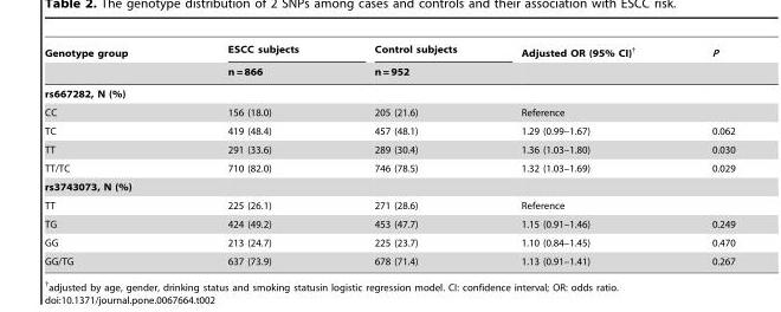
<table><thead><tr><td rowspan="2">Genotype group</td><td rowspan="2">ESCC subjects n = 866</td><td rowspan="2">Control subjects n = 952</td><td rowspan="2">Adjusted OR (95% CI)†</td><td rowspan="2">P</td></tr><tr></tr></thead><tbody><tr><td colspan="5">rs667282, N (%)</td></tr><tr><td>CC</td><td>156 (18.0)</td><td>205 (21.6)</td><td>Reference</td><td></td></tr><tr><td>TC</td><td>419 (48.4)</td><td>457 (48.1)</td><td>1.29 (0.99–1.67)</td><td>0.062</td></tr><tr><td>TT</td><td>291 (33.6)</td><td>289 (30.4)</td><td>1.36 (1.03–1.80)</td><td>0.030</td></tr><tr><td>TT/TC</td><td>710 (82.0)</td><td>746 (78.5)</td><td>1.32 (1.03–1.69)</td><td>0.029</td></tr><tr><td colspan="5">rs3743073, N (%)</td></tr><tr><td>TT</td><td>225 (26.1)</td><td>271 (28.6)</td><td>Reference</td><td></td></tr><tr><td>TG</td><td>424 (49.2)</td><td>453 (47.7)</td><td>1.15 (0.91–1.46)</td><td>0.249</td></tr><tr><td>GG</td><td>213 (24.7)</td><td>225 (23.7)</td><td>1.10 (0.84–1.45)</td><td>0.470</td></tr><tr><td>GG/TG</td><td>637 (73.9)</td><td>678 (71.4)</td><td>1.13 (0.91–1.41)</td><td>0.267</td></tr></tbody></table>